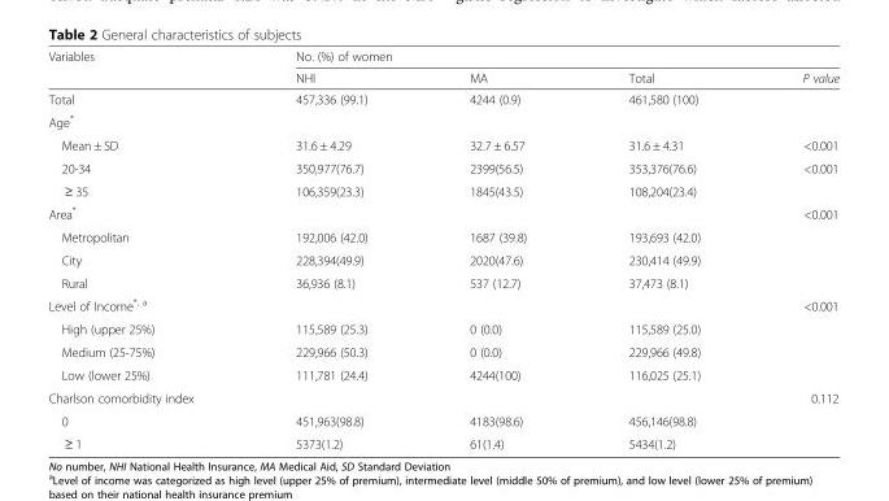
<table><thead><tr><td rowspan="2">Variables</td><td colspan="4">No. (%) of women</td></tr><tr><td>NHI</td><td>MA</td><td>Total</td><td>P value</td></tr></thead><tbody><tr><td>Total</td><td>457,336 (99.1)</td><td>4244 (0.9)</td><td>461,580 (100)</td><td></td></tr><tr><td colspan="5">Age*</td></tr><tr><td>Mean ± SD</td><td>31.6 ± 4.29</td><td>32.7 ± 6.57</td><td>31.6 ± 4.31</td><td>&lt;0.001</td></tr><tr><td>20-34</td><td>350,977(76.7)</td><td>2399(56.5)</td><td>353,376(76.6)</td><td>&lt;0.001</td></tr><tr><td>≥ 35</td><td>106,359(23.3)</td><td>1845(43.5)</td><td>108,204(23.4)</td><td></td></tr><tr><td>Area*</td><td></td><td></td><td></td><td>&lt;0.001</td></tr><tr><td>Metropolitan</td><td>192,006 (42.0)</td><td>1687 (39.8)</td><td>193,693 (42.0)</td><td></td></tr><tr><td>City</td><td>228,394(49.9)</td><td>2020(47.6)</td><td>230,414 (49.9)</td><td></td></tr><tr><td>Rural</td><td>36,936 (8.1)</td><td>537 (12.7)</td><td>37,473 (8.1)</td><td></td></tr><tr><td>Level of Income<sup>*, a</sup></td><td></td><td></td><td></td><td>&lt;0.001</td></tr><tr><td>High (upper 25%)</td><td>115,589 (25.3)</td><td>0 (0.0)</td><td>115,589 (25.0)</td><td></td></tr><tr><td>Medium (25-75%)</td><td>229,966 (50.3)</td><td>0 (0.0)</td><td>229,966 (49.8)</td><td></td></tr><tr><td>Low (lower 25%)</td><td>111,781 (24.4)</td><td>4244(100)</td><td>116,025 (25.1)</td><td></td></tr><tr><td>Charlson comorbidity index</td><td></td><td></td><td></td><td>0.112</td></tr><tr><td>0</td><td>451,963(98.8)</td><td>4183(98.6)</td><td>456,146(98.8)</td><td></td></tr><tr><td>≥ 1</td><td>5373(1.2)</td><td>61(1.4)</td><td>5434(1.2)</td><td></td></tr></tbody></table>